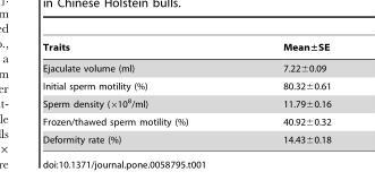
<table><thead><tr><td>Traits</td><td>Mean±SE</td></tr></thead><tbody><tr><td>Ejaculate volume (ml)</td><td>7.22±0.09</td></tr><tr><td>Initial sperm motility (%)</td><td>80.32±0.61</td></tr><tr><td>Sperm density (×10<sup>8</sup>/ml)</td><td>11.79±0.16</td></tr><tr><td>Frozen/thawed sperm motility (%)</td><td>40.92±0.32</td></tr><tr><td>Deformity rate (%)</td><td>14.43±0.18</td></tr></tbody></table>